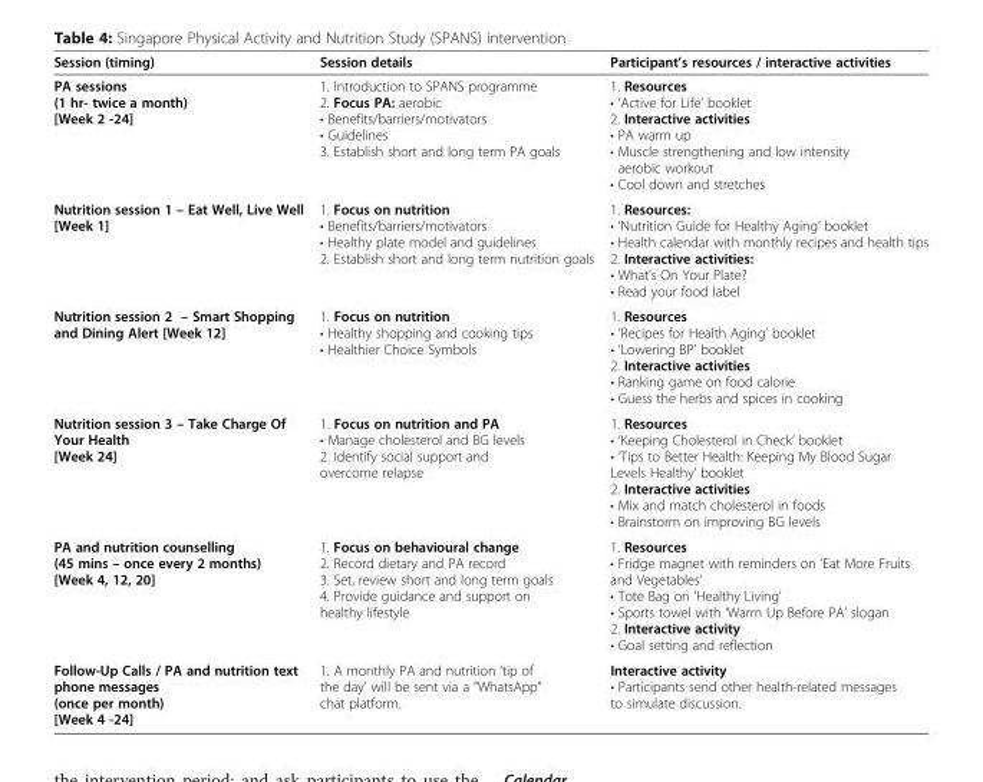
<table><thead><tr><td>Session (timing)</td><td>Session details</td><td>Participant’s resources / interactive activities</td></tr></thead><tbody><tr><td>PA sessions (1 hr- twice a month) [Week 2 -24]</td><td>1. Introduction to SPANS programme 2. Focus PA: aerobic • Benefits/barriers/motivators • Guidelines 3. Establish short and long term PA goals</td><td>1. Resources • ‘Active for Life’ booklet 2. Interactive activities • PA warm up • Muscle strengthening and low intensity aerobic workout • Cool down and stretches</td></tr><tr><td>Nutrition session 1 – Eat Well, Live Well [Week 1]</td><td>1. Focus on nutrition • Benefits/barriers/motivators • Healthy plate model and guidelines 2. Establish short and long term nutrition goals</td><td>1. Resources: • ‘Nutrition Guide for Healthy Aging’ booklet • Health calendar with monthly recipes and health tips 2. Interactive activities: • What’s On Your Plate? • Read your food label</td></tr><tr><td>Nutrition session 2 – Smart Shopping and Dining Alert [Week 12]</td><td>1. Focus on nutrition • Healthy shopping and cooking tips • Healthier Choice Symbols</td><td>1. Resources • ‘Recipes for Health Aging’ booklet • ‘Lowering BP’ booklet 2. Interactive activities • Ranking game on food calorie • Guess the herbs and spices in cooking</td></tr><tr><td>Nutrition session 3 – Take Charge Of Your Health [Week 24]</td><td>1. Focus on nutrition and PA • Manage cholesterol and BG levels 2. Identify social support and overcome relapse</td><td>1. Resources • ‘Keeping Cholesterol in Check’ booklet • ‘Tips to Better Health: Keeping My Blood Sugar Levels Healthy’ booklet 2. Interactive activities • Mix and match cholesterol in foods • Brainstorm on improving BG levels</td></tr><tr><td>PA and nutrition counselling (45 mins – once every 2 months) [Week 4, 12, 20]</td><td>1. Focus on behavioural change 2. Record dietary and PA record 3. Set, review short and long term goals 4. Provide guidance and support on healthy lifestyle</td><td>1. Resources • Fridge magnet with reminders on ‘Eat More Fruits and Vegetables’ • Tote Bag on ‘Healthy Living’ • Sports towel with ‘Warm Up Before PA’ slogan 2. Interactive activity • Goal setting and reflection</td></tr><tr><td>Follow-Up Calls / PA and nutrition text phone messages (once per month) [Week 4 -24]</td><td>1. A monthly PA and nutrition ‘tip of the day’ will be sent via a “WhatsApp” chat platform.</td><td>Interactive activity • Participants send other health-related messages to simulate discussion.</td></tr></tbody></table>